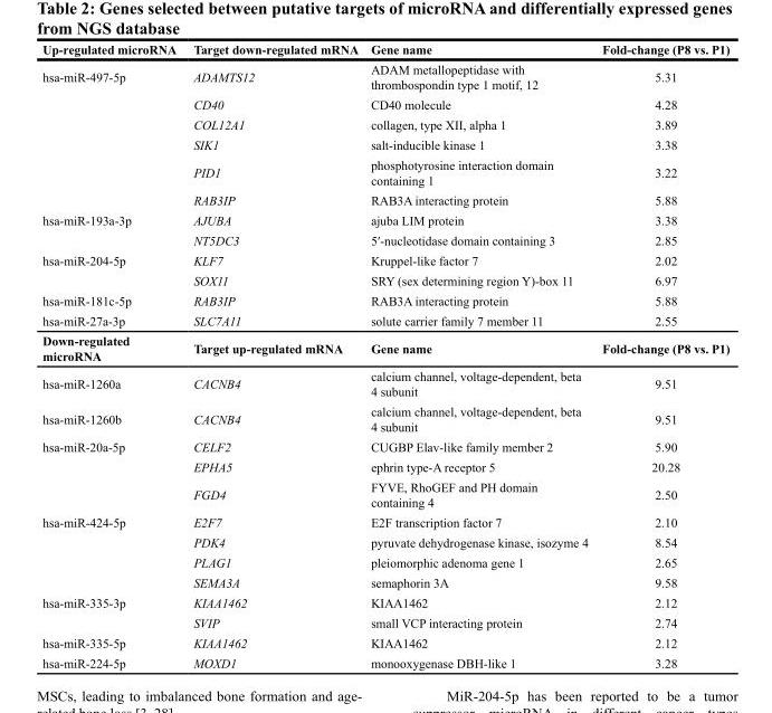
<table><thead><tr><td>Up-regulated microRNA</td><td>Target down-regulated mRNA</td><td>Gene name</td><td>Fold-change (P8 vs. P1)</td></tr></thead><tbody><tr><td rowspan="6">hsa-miR-497-5p</td><td>ADAMTS12</td><td>ADAM metallopeptidase with thrombospondin type 1 motif, 12</td><td>5.31</td></tr><tr><td>CD40</td><td>CD40 molecule</td><td>4.28</td></tr><tr><td>COL12A1</td><td>collagen, type XII, alpha 1</td><td>3.89</td></tr><tr><td>SIK1</td><td>salt-inducible kinase 1</td><td>3.38</td></tr><tr><td>PID1</td><td>phosphotyrosine interaction domain containing 1</td><td>3.22</td></tr><tr><td>RAB3IP</td><td>RAB3A interacting protein</td><td>5.88</td></tr><tr><td rowspan="2">hsa-miR-193a-3p</td><td>AJUBA</td><td>ajuba LIM protein</td><td>3.38</td></tr><tr><td>NT5DC3</td><td>5′-nucleotidase domain containing 3</td><td>2.85</td></tr><tr><td rowspan="2">hsa-miR-204-5p</td><td>KLF7</td><td>Kruppel-like factor 7</td><td>2.02</td></tr><tr><td>SOX11</td><td>SRY (sex determining region Y)-box 11</td><td>6.97</td></tr><tr><td>hsa-miR-181c-5p</td><td>RAB3IP</td><td>RAB3A interacting protein</td><td>5.88</td></tr><tr><td>hsa-miR-27a-3p</td><td>SLC7A11</td><td>solute carrier family 7 member 11</td><td>2.55</td></tr><tr><td>Down-regulated microRNA</td><td>Target up-regulated mRNA</td><td>Gene name</td><td>Fold-change (P8 vs. P1)</td></tr><tr><td>hsa-miR-1260a</td><td>CACNB4</td><td>calcium channel, voltage-dependent, beta 4 subunit</td><td>9.51</td></tr><tr><td>hsa-miR-1260b</td><td>CACNB4</td><td>calcium channel, voltage-dependent, beta 4 subunit</td><td>9.51</td></tr><tr><td rowspan="3">hsa-miR-20a-5p</td><td>CELF2</td><td>CUGBP Elav-like family member 2</td><td>5.90</td></tr><tr><td>EPHA5</td><td>ephrin type-A receptor 5</td><td>20.28</td></tr><tr><td>FGD4</td><td>FYVE, RhoGEF and PH domain containing 4</td><td>2.50</td></tr><tr><td rowspan="4">hsa-miR-424-5p</td><td>E2F7</td><td>E2F transcription factor 7</td><td>2.10</td></tr><tr><td>PDK4</td><td>pyruvate dehydrogenase kinase, isozyme 4</td><td>8.54</td></tr><tr><td>PLAG1</td><td>pleiomorphic adenoma gene 1</td><td>2.65</td></tr><tr><td>SEMA3A</td><td>semaphorin 3A</td><td>9.58</td></tr><tr><td rowspan="2">hsa-miR-335-3p</td><td>KIAA1462</td><td>KIAA1462</td><td>2.12</td></tr><tr><td>SVIP</td><td>small VCP interacting protein</td><td>2.74</td></tr><tr><td>hsa-miR-335-5p</td><td>KIAA1462</td><td>KIAA1462</td><td>2.12</td></tr><tr><td>hsa-miR-224-5p</td><td>MOXD1</td><td>monooxygenase DBH-like 1</td><td>3.28</td></tr></tbody></table>